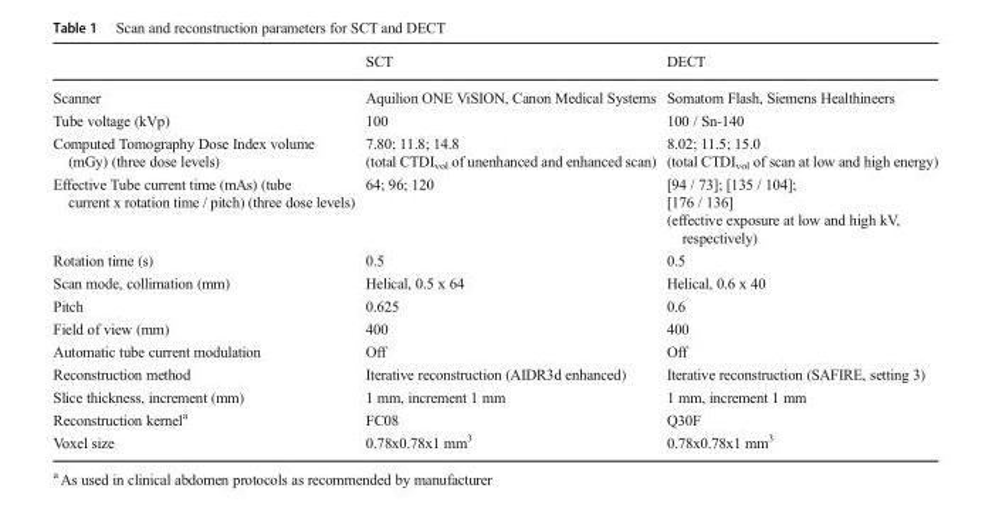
<table><thead><tr><td></td><td>SCT</td><td>DECT</td></tr></thead><tbody><tr><td>Scanner</td><td>Aquilion ONE ViSION, Canon Medical Systems</td><td>Somatom Flash, Siemens Healthineers</td></tr><tr><td>Tube voltage (kVp)</td><td>100</td><td>100 / Sn-140</td></tr><tr><td>Computed Tomography Dose Index volume (mGy) (three dose levels)</td><td>7.80; 11.8; 14.8 (total CTDI<sub>vol</sub> of unenhanced and enhanced scan)</td><td>8.02; 11.5; 15.0 (total CTDI<sub>vol</sub> of scan at low and high energy)</td></tr><tr><td>Effective Tube current time (mAs) (tube current x rotation time / pitch) (three dose levels)</td><td>64; 96; 120</td><td>[94 / 73]; [135 / 104]; [176 / 136] (effective exposure at low and high kV, respectively)</td></tr><tr><td>Rotation time (s)</td><td>0.5</td><td>0.5</td></tr><tr><td>Scan mode, collimation (mm)</td><td>Helical, 0.5 x 64</td><td>Helical, 0.6 x 40</td></tr><tr><td>Pitch</td><td>0.625</td><td>0.6</td></tr><tr><td>Field of view (mm)</td><td>400</td><td>400</td></tr><tr><td>Automatic tube current modulation</td><td>Off</td><td>Off</td></tr><tr><td>Reconstruction method</td><td>Iterative reconstruction (AIDR3d enhanced)</td><td>Iterative reconstruction (SAFIRE, setting 3)</td></tr><tr><td>Slice thickness, increment (mm)</td><td>1 mm, increment 1 mm</td><td>1 mm, increment 1 mm</td></tr><tr><td>Reconstruction kernel<sup>a</sup></td><td>FC08</td><td>Q30F</td></tr><tr><td>Voxel size</td><td>0.78x0.78x1 mm<sup>3</sup></td><td>0.78x0.78x1 mm<sup>3</sup></td></tr></tbody></table>